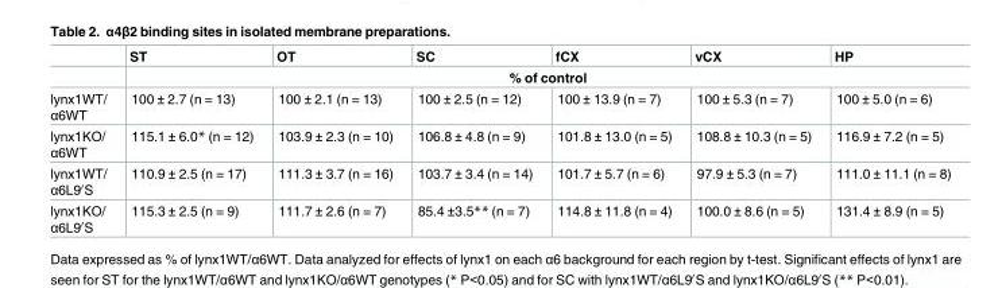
<table><thead><tr><td rowspan="2"></td><td>ST</td><td>OT</td><td>SC</td><td>fCX</td><td>vCX</td><td>HP</td></tr><tr><td colspan="6">% of control</td></tr></thead><tbody><tr><td>lynx1WT/ α6WT</td><td>100 ± 2.7 (n = 13)</td><td>100 ± 2.1 (n = 13)</td><td>100 ± 2.5 (n = 12)</td><td>100 ± 13.9 (n = 7)</td><td>100 ± 5.3 (n = 7)</td><td>100 ± 5.0 (n = 6)</td></tr><tr><td>lynx1KO/ α6WT</td><td>115.1 ± 6.0* (n = 12)</td><td>103.9 ± 2.3 (n = 10)</td><td>106.8 ± 4.8 (n = 9)</td><td>101.8 ± 13.0 (n = 5)</td><td>108.8 ± 10.3 (n = 5)</td><td>116.9 ± 7.2 (n = 5)</td></tr><tr><td>lynx1WT/ α6L9′S</td><td>110.9 ± 2.5 (n = 17)</td><td>111.3 ± 3.7 (n = 16)</td><td>103.7 ± 3.4 (n = 14)</td><td>101.7 ± 5.7 (n = 6)</td><td>97.9 ± 5.3 (n = 7)</td><td>111.0 ± 11.1 (n = 8)</td></tr><tr><td>lynx1KO/ α6L9′S</td><td>115.3 ± 2.5 (n = 9)</td><td>111.7 ± 2.6 (n = 7)</td><td>85.4 ±3.5** (n = 7)</td><td>114.8 ± 11.8 (n = 4)</td><td>100.0 ± 8.6 (n = 5)</td><td>131.4 ± 8.9 (n = 5)</td></tr></tbody></table>